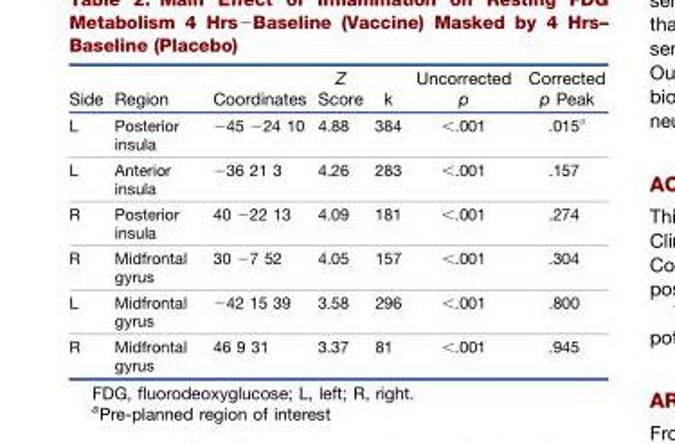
<table><thead><tr><td>Side</td><td>Region</td><td>Coordinates</td><td>Z Score</td><td>k</td><td>Uncorrected p</td><td>Corrected p Peak</td></tr></thead><tbody><tr><td>L</td><td>Posterior insula</td><td>−45 −24 10</td><td>4.88</td><td>384</td><td>&lt;.001</td><td>.015<sup>a</sup></td></tr><tr><td>L</td><td>Anterior insula</td><td>−36 21 3</td><td>4.26</td><td>283</td><td>&lt;.001</td><td>.157</td></tr><tr><td>R</td><td>Posterior insula</td><td>40 −22 13</td><td>4.09</td><td>181</td><td>&lt;.001</td><td>.274</td></tr><tr><td>R</td><td>Midfrontal gyrus</td><td>30 −7 52</td><td>4.05</td><td>157</td><td>&lt;.001</td><td>.304</td></tr><tr><td>L</td><td>Midfrontal gyrus</td><td>−42 15 39</td><td>3.58</td><td>296</td><td>&lt;.001</td><td>.800</td></tr><tr><td>R</td><td>Midfrontal gyrus</td><td>46 9 31</td><td>3.37</td><td>81</td><td>&lt;.001</td><td>.945</td></tr></tbody></table>